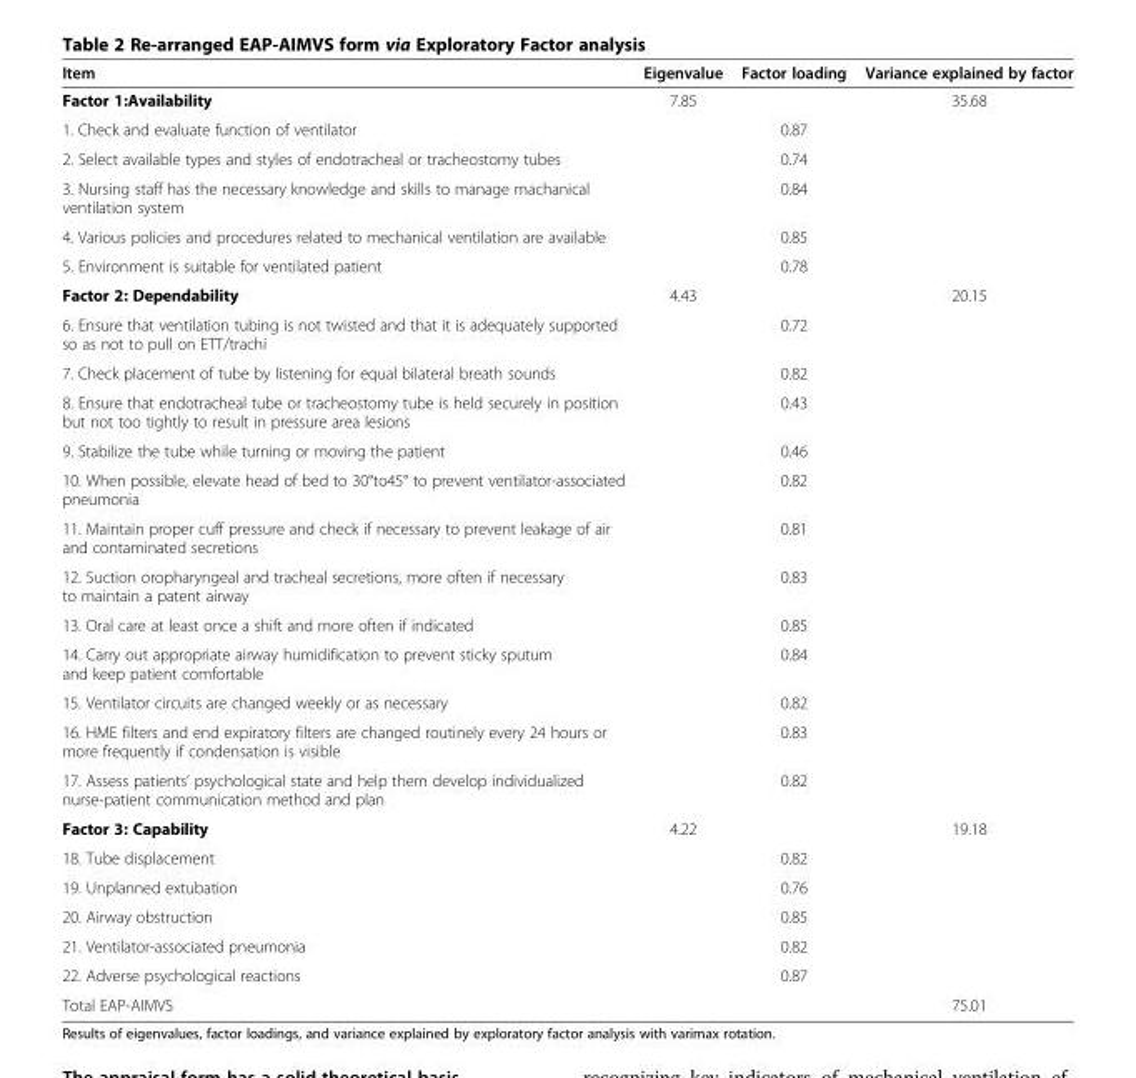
<table><thead><tr><td>Item</td><td>Eigenvalue</td><td>Factor loading</td><td>Variance explained by factor</td></tr></thead><tbody><tr><td>Factor 1:Availability</td><td>7.85</td><td></td><td>35.68</td></tr><tr><td>1. Check and evaluate function of ventilator</td><td></td><td>0.87</td><td></td></tr><tr><td>2. Select available types and styles of endotracheal or tracheostomy tubes</td><td></td><td>0.74</td><td></td></tr><tr><td>3. Nursing staff has the necessary knowledge and skills to manage machanical ventilation system</td><td></td><td>0.84</td><td></td></tr><tr><td>4. Various policies and procedures related to mechanical ventilation are available</td><td></td><td>0.85</td><td></td></tr><tr><td>5. Environment is suitable for ventilated patient</td><td></td><td>0.78</td><td></td></tr><tr><td>Factor 2: Dependability</td><td>4.43</td><td></td><td>20.15</td></tr><tr><td>6. Ensure that ventilation tubing is not twisted and that it is adequately supported so as not to pull on ETT/trachi</td><td></td><td>0.72</td><td></td></tr><tr><td>7. Check placement of tube by listening for equal bilateral breath sounds</td><td></td><td>0.82</td><td></td></tr><tr><td>8. Ensure that endotracheal tube or tracheostomy tube is held securely in position but not too tightly to result in pressure area lesions</td><td></td><td>0.43</td><td></td></tr><tr><td>9. Stabilize the tube while turning or moving the patient</td><td></td><td>0.46</td><td></td></tr><tr><td>10. When possible, elevate head of bed to 30°to45° to prevent ventilator-associated pneumonia</td><td></td><td>0.82</td><td></td></tr><tr><td>11. Maintain proper cuff pressure and check if necessary to prevent leakage of air and contaminated secretions</td><td></td><td>0.81</td><td></td></tr><tr><td>12. Suction oropharyngeal and tracheal secretions, more often if necessary to maintain a patent airway</td><td></td><td>0.83</td><td></td></tr><tr><td>13. Oral care at least once a shift and more often if indicated</td><td></td><td>0.85</td><td></td></tr><tr><td>14. Carry out appropriate airway humidification to prevent sticky sputum and keep patient comfortable</td><td></td><td>0.84</td><td></td></tr><tr><td>15. Ventilator circuits are changed weekly or as necessary</td><td></td><td>0.82</td><td></td></tr><tr><td>16. HME filters and end expiratory filters are changed routinely every 24 hours or more frequently if condensation is visible</td><td></td><td>0.83</td><td></td></tr><tr><td>17. Assess patients’ psychological state and help them develop individualized nurse-patient communication method and plan</td><td></td><td>0.82</td><td></td></tr><tr><td>Factor 3: Capability</td><td>4.22</td><td></td><td>19.18</td></tr><tr><td>18. Tube displacement</td><td></td><td>0.82</td><td></td></tr><tr><td>19. Unplanned extubation</td><td></td><td>0.76</td><td></td></tr><tr><td>20. Airway obstruction</td><td></td><td>0.85</td><td></td></tr><tr><td>21. Ventilator-associated pneumonia</td><td></td><td>0.82</td><td></td></tr><tr><td>22. Adverse psychological reactions</td><td></td><td>0.87</td><td></td></tr><tr><td>Total EAP-AIMVS</td><td></td><td></td><td>75.01</td></tr></tbody></table>